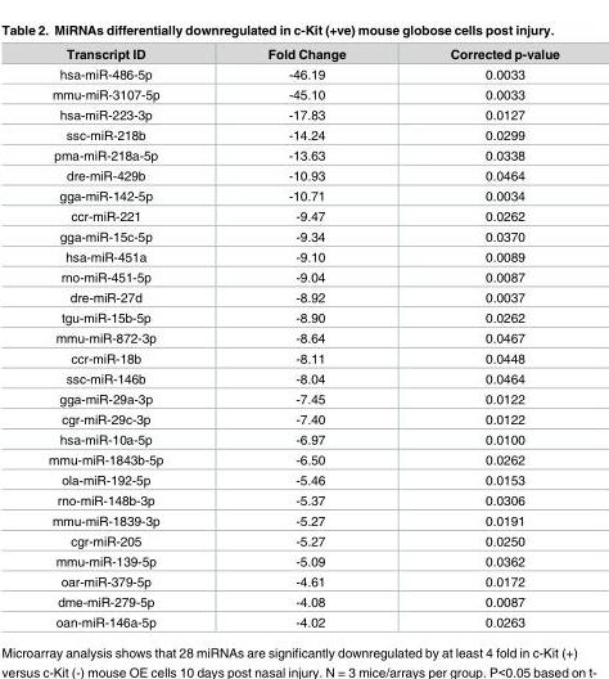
<table><thead><tr><td>Transcript ID</td><td>Fold Change</td><td>Corrected p-value</td></tr></thead><tbody><tr><td>hsa-miR-486-5p</td><td>-46.19</td><td>0.0033</td></tr><tr><td>mmu-miR-3107-5p</td><td>-45.10</td><td>0.0033</td></tr><tr><td>hsa-miR-223-3p</td><td>-17.83</td><td>0.0127</td></tr><tr><td>ssc-miR-218b</td><td>-14.24</td><td>0.0299</td></tr><tr><td>pma-miR-218a-5p</td><td>-13.63</td><td>0.0338</td></tr><tr><td>dre-miR-429b</td><td>-10.93</td><td>0.0464</td></tr><tr><td>gga-miR-142-5p</td><td>-10.71</td><td>0.0034</td></tr><tr><td>ccr-miR-221</td><td>-9.47</td><td>0.0262</td></tr><tr><td>gga-miR-15c-5p</td><td>-9.34</td><td>0.0370</td></tr><tr><td>hsa-miR-451a</td><td>-9.10</td><td>0.0089</td></tr><tr><td>rno-miR-451-5p</td><td>-9.04</td><td>0.0087</td></tr><tr><td>dre-miR-27d</td><td>-8.92</td><td>0.0037</td></tr><tr><td>tgu-miR-15b-5p</td><td>-8.90</td><td>0.0262</td></tr><tr><td>mmu-miR-872-3p</td><td>-8.64</td><td>0.0467</td></tr><tr><td>ccr-miR-18b</td><td>-8.11</td><td>0.0448</td></tr><tr><td>ssc-miR-146b</td><td>-8.04</td><td>0.0464</td></tr><tr><td>gga-miR-29a-3p</td><td>-7.45</td><td>0.0122</td></tr><tr><td>cgr-miR-29c-3p</td><td>-7.40</td><td>0.0122</td></tr><tr><td>hsa-miR-10a-5p</td><td>-6.97</td><td>0.0100</td></tr><tr><td>mmu-miR-1843b-5p</td><td>-6.50</td><td>0.0262</td></tr><tr><td>ola-miR-192-5p</td><td>-5.46</td><td>0.0153</td></tr><tr><td>rno-miR-148b-3p</td><td>-5.37</td><td>0.0306</td></tr><tr><td>mmu-miR-1839-3p</td><td>-5.27</td><td>0.0191</td></tr><tr><td>cgr-miR-205</td><td>-5.27</td><td>0.0250</td></tr><tr><td>mmu-miR-139-5p</td><td>-5.09</td><td>0.0362</td></tr><tr><td>oar-miR-379-5p</td><td>-4.61</td><td>0.0172</td></tr><tr><td>dme-miR-279-5p</td><td>-4.08</td><td>0.0087</td></tr><tr><td>oan-miR-146a-5p</td><td>-4.02</td><td>0.0263</td></tr></tbody></table>